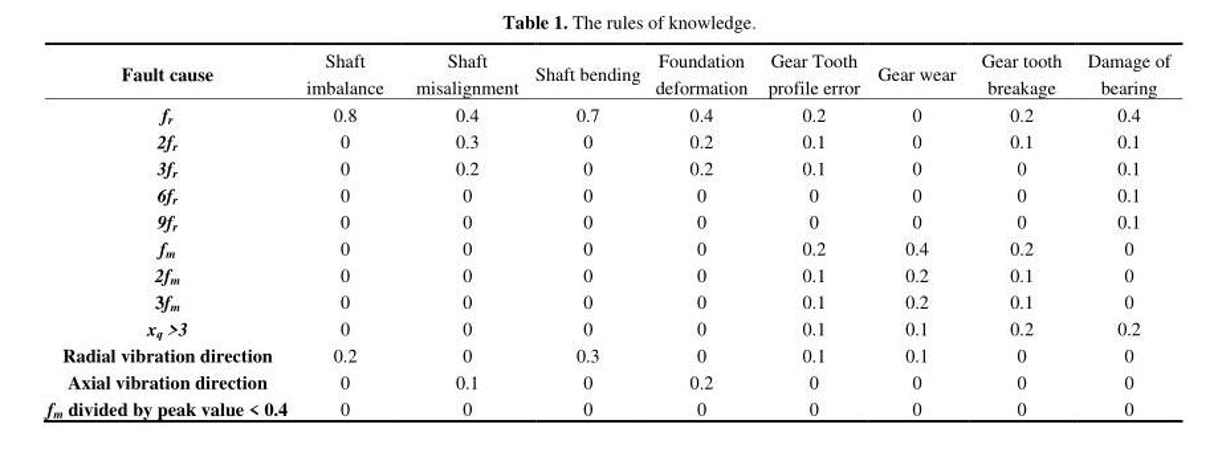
<table><thead><tr><td>Fault cause</td><td>Shaft imbalance</td><td>Shaft misalignment</td><td>Shaft bending</td><td>Foundation deformation</td><td>Gear Tooth profile error</td><td>Gear wear</td><td>Gear tooth breakage</td><td>Damage of bearing</td></tr></thead><tbody><tr><td>f<sub>r</sub></td><td>0.8</td><td>0.4</td><td>0.7</td><td>0.4</td><td>0.2</td><td>0</td><td>0.2</td><td>0.4</td></tr><tr><td>2f<sub>r</sub></td><td>0</td><td>0.3</td><td>0</td><td>0.2</td><td>0.1</td><td>0</td><td>0.1</td><td>0.1</td></tr><tr><td>3f<sub>r</sub></td><td>0</td><td>0.2</td><td>0</td><td>0.2</td><td>0.1</td><td>0</td><td>0</td><td>0.1</td></tr><tr><td>6f<sub>r</sub></td><td>0</td><td>0</td><td>0</td><td>0</td><td>0</td><td>0</td><td>0</td><td>0.1</td></tr><tr><td>9f<sub>r</sub></td><td>0</td><td>0</td><td>0</td><td>0</td><td>0</td><td>0</td><td>0</td><td>0.1</td></tr><tr><td>f<sub>m</sub></td><td>0</td><td>0</td><td>0</td><td>0</td><td>0.2</td><td>0.4</td><td>0.2</td><td>0</td></tr><tr><td>2f<sub>m</sub></td><td>0</td><td>0</td><td>0</td><td>0</td><td>0.1</td><td>0.2</td><td>0.1</td><td>0</td></tr><tr><td>3f<sub>m</sub></td><td>0</td><td>0</td><td>0</td><td>0</td><td>0.1</td><td>0.2</td><td>0.1</td><td>0</td></tr><tr><td>x<sub>q</sub> &gt;3</td><td>0</td><td>0</td><td>0</td><td>0</td><td>0.1</td><td>0.1</td><td>0.2</td><td>0.2</td></tr><tr><td>Radial vibration direction</td><td>0.2</td><td>0</td><td>0.3</td><td>0</td><td>0.1</td><td>0.1</td><td>0</td><td>0</td></tr><tr><td>Axial vibration direction</td><td>0</td><td>0.1</td><td>0</td><td>0.2</td><td>0</td><td>0</td><td>0</td><td>0</td></tr><tr><td>f<sub>m</sub> divided by peak value &lt; 0.4</td><td>0</td><td>0</td><td>0</td><td>0</td><td>0</td><td>0</td><td>0</td><td>0</td></tr></tbody></table>